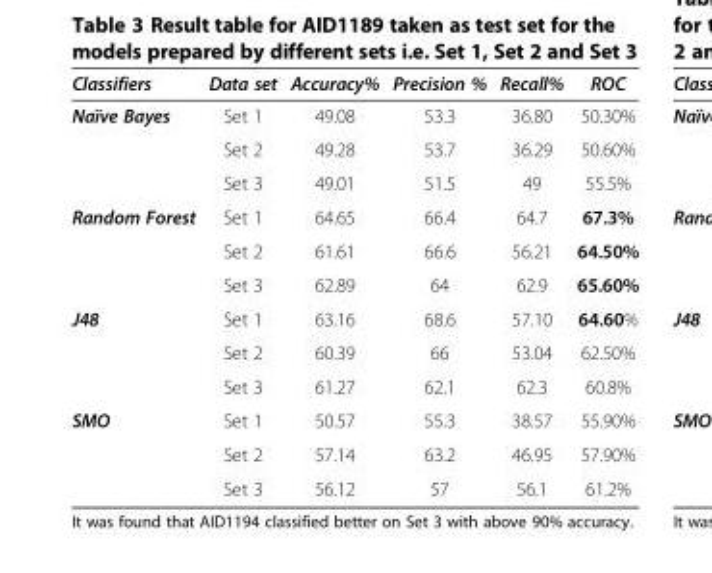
<table><thead><tr><td>Classifiers</td><td>Data set</td><td>Accuracy%</td><td>Precision %</td><td>Recall%</td><td>ROC</td></tr></thead><tbody><tr><td rowspan="3">Naïve Bayes</td><td>Set 1</td><td>49.08</td><td>53.3</td><td>36.80</td><td>50.30%</td></tr><tr><td>Set 2</td><td>49.28</td><td>53.7</td><td>36.29</td><td>50.60%</td></tr><tr><td>Set 3</td><td>49.01</td><td>51.5</td><td>49</td><td>55.5%</td></tr><tr><td rowspan="3">Random Forest</td><td>Set 1</td><td>64.65</td><td>66.4</td><td>64.7</td><td>67.3%</td></tr><tr><td>Set 2</td><td>61.61</td><td>66.6</td><td>56.21</td><td>64.50%</td></tr><tr><td>Set 3</td><td>62.89</td><td>64</td><td>62.9</td><td>65.60%</td></tr><tr><td rowspan="3">J48</td><td>Set 1</td><td>63.16</td><td>68.6</td><td>57.10</td><td>64.60%</td></tr><tr><td>Set 2</td><td>60.39</td><td>66</td><td>53.04</td><td>62.50%</td></tr><tr><td>Set 3</td><td>61.27</td><td>62.1</td><td>62.3</td><td>60.8%</td></tr><tr><td rowspan="3">SMO</td><td>Set 1</td><td>50.57</td><td>55.3</td><td>38.57</td><td>55.90%</td></tr><tr><td>Set 2</td><td>57.14</td><td>63.2</td><td>46.95</td><td>57.90%</td></tr><tr><td>Set 3</td><td>56.12</td><td>57</td><td>56.1</td><td>61.2%</td></tr></tbody></table>